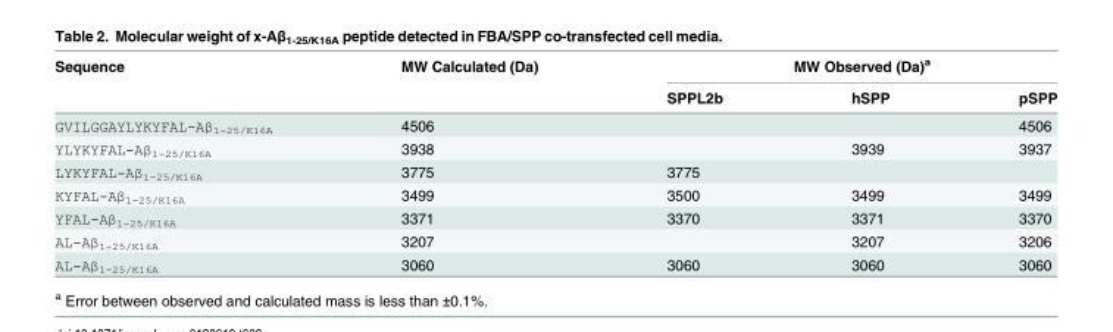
<table><thead><tr><td rowspan="2">Sequence</td><td rowspan="2">MW Calculated (Da)</td><td colspan="3">MW Observed (Da)<sup>a</sup></td></tr><tr><td>SPPL2b</td><td>hSPP</td><td>pSPP</td></tr></thead><tbody><tr><td>GVILGGAYLYKYFAL-Aβ<sub>1-25/K16A</sub></td><td>4506</td><td></td><td></td><td>4506</td></tr><tr><td>YLYKYFAL-Aβ<sub>1-25/K16A</sub></td><td>3938</td><td></td><td>3939</td><td>3937</td></tr><tr><td>LYKYFAL-Aβ<sub>1-25/K16A</sub></td><td>3775</td><td>3775</td><td></td><td></td></tr><tr><td>KYFAL-Aβ<sub>1-25/K16A</sub></td><td>3499</td><td>3500</td><td>3499</td><td>3499</td></tr><tr><td>YFAL-Aβ<sub>1-25/K16A</sub></td><td>3371</td><td>3370</td><td>3371</td><td>3370</td></tr><tr><td>AL-Aβ<sub>1-25/K16A</sub></td><td>3207</td><td></td><td>3207</td><td>3206</td></tr><tr><td>AL-Aβ<sub>1-25/K16A</sub></td><td>3060</td><td>3060</td><td>3060</td><td>3060</td></tr></tbody></table>